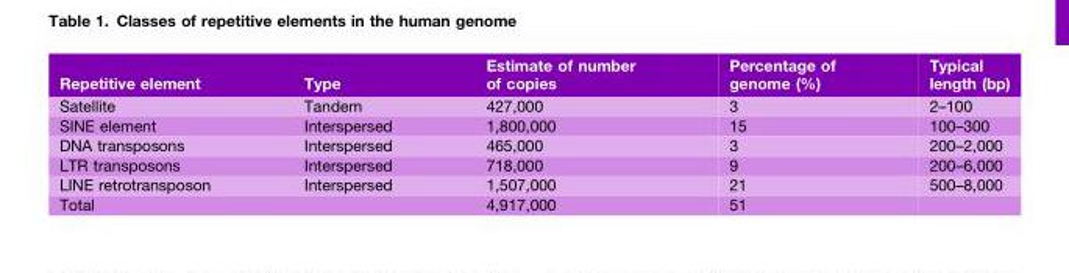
<table><thead><tr><td>Repetitive element</td><td>Type</td><td>Estimate of number of copies</td><td>Percentage of genome (%)</td><td>Typical length (bp)</td></tr></thead><tbody><tr><td>Satellite</td><td>Tandem</td><td>427,000</td><td>3</td><td>2–100</td></tr><tr><td>SINE element</td><td>Interspersed</td><td>1,800,000</td><td>15</td><td>100–300</td></tr><tr><td>DNA transposons</td><td>Interspersed</td><td>465,000</td><td>3</td><td>200–2,000</td></tr><tr><td>LTR transposons</td><td>Interspersed</td><td>718,000</td><td>9</td><td>200–6,000</td></tr><tr><td>LINE retrotransposon</td><td>Interspersed</td><td>1,507,000</td><td>21</td><td>500–8,000</td></tr><tr><td>Total</td><td></td><td>4,917,000</td><td>51</td><td></td></tr></tbody></table>